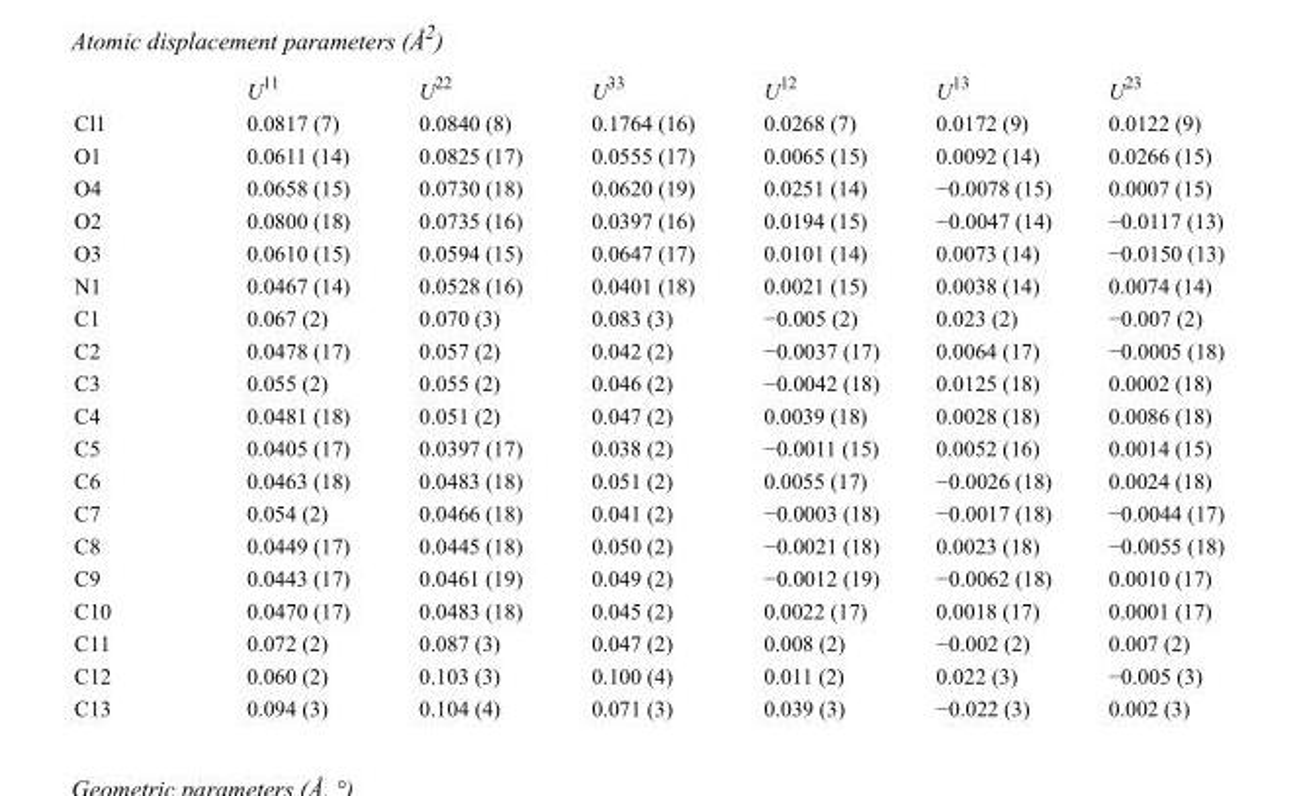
<table><thead><tr><td></td><td>U<sup>11</sup></td><td>U<sup>22</sup></td><td>U<sup>33</sup></td><td>U<sup>12</sup></td><td>U<sup>13</sup></td><td>U<sup>23</sup></td></tr></thead><tbody><tr><td>Cl1</td><td>0.0817 (7)</td><td>0.0840 (8)</td><td>0.1764 (16)</td><td>0.0268 (7)</td><td>0.0172 (9)</td><td>0.0122 (9)</td></tr><tr><td>O1</td><td>0.0611 (14)</td><td>0.0825 (17)</td><td>0.0555 (17)</td><td>0.0065 (15)</td><td>0.0092 (14)</td><td>0.0266 (15)</td></tr><tr><td>O4</td><td>0.0658 (15)</td><td>0.0730 (18)</td><td>0.0620 (19)</td><td>0.0251 (14)</td><td>−0.0078 (15)</td><td>0.0007 (15)</td></tr><tr><td>O2</td><td>0.0800 (18)</td><td>0.0735 (16)</td><td>0.0397 (16)</td><td>0.0194 (15)</td><td>−0.0047 (14)</td><td>−0.0117 (13)</td></tr><tr><td>O3</td><td>0.0610 (15)</td><td>0.0594 (15)</td><td>0.0647 (17)</td><td>0.0101 (14)</td><td>0.0073 (14)</td><td>−0.0150 (13)</td></tr><tr><td>N1</td><td>0.0467 (14)</td><td>0.0528 (16)</td><td>0.0401 (18)</td><td>0.0021 (15)</td><td>0.0038 (14)</td><td>0.0074 (14)</td></tr><tr><td>C1</td><td>0.067 (2)</td><td>0.070 (3)</td><td>0.083 (3)</td><td>−0.005 (2)</td><td>0.023 (2)</td><td>−0.007 (2)</td></tr><tr><td>C2</td><td>0.0478 (17)</td><td>0.057 (2)</td><td>0.042 (2)</td><td>−0.0037 (17)</td><td>0.0064 (17)</td><td>−0.0005 (18)</td></tr><tr><td>C3</td><td>0.055 (2)</td><td>0.055 (2)</td><td>0.046 (2)</td><td>−0.0042 (18)</td><td>0.0125 (18)</td><td>0.0002 (18)</td></tr><tr><td>C4</td><td>0.0481 (18)</td><td>0.051 (2)</td><td>0.047 (2)</td><td>0.0039 (18)</td><td>0.0028 (18)</td><td>0.0086 (18)</td></tr><tr><td>C5</td><td>0.0405 (17)</td><td>0.0397 (17)</td><td>0.038 (2)</td><td>−0.0011 (15)</td><td>0.0052 (16)</td><td>0.0014 (15)</td></tr><tr><td>C6</td><td>0.0463 (18)</td><td>0.0483 (18)</td><td>0.051 (2)</td><td>0.0055 (17)</td><td>−0.0026 (18)</td><td>0.0024 (18)</td></tr><tr><td>C7</td><td>0.054 (2)</td><td>0.0466 (18)</td><td>0.041 (2)</td><td>−0.0003 (18)</td><td>−0.0017 (18)</td><td>−0.0044 (17)</td></tr><tr><td>C8</td><td>0.0449 (17)</td><td>0.0445 (18)</td><td>0.050 (2)</td><td>−0.0021 (18)</td><td>0.0023 (18)</td><td>−0.0055 (18)</td></tr><tr><td>C9</td><td>0.0443 (17)</td><td>0.0461 (19)</td><td>0.049 (2)</td><td>−0.0012 (19)</td><td>−0.0062 (18)</td><td>0.0010 (17)</td></tr><tr><td>C10</td><td>0.0470 (17)</td><td>0.0483 (18)</td><td>0.045 (2)</td><td>0.0022 (17)</td><td>0.0018 (17)</td><td>0.0001 (17)</td></tr><tr><td>C11</td><td>0.072 (2)</td><td>0.087 (3)</td><td>0.047 (2)</td><td>0.008 (2)</td><td>−0.002 (2)</td><td>0.007 (2)</td></tr><tr><td>C12</td><td>0.060 (2)</td><td>0.103 (3)</td><td>0.100 (4)</td><td>0.011 (2)</td><td>0.022 (3)</td><td>−0.005 (3)</td></tr><tr><td>C13</td><td>0.094 (3)</td><td>0.104 (4)</td><td>0.071 (3)</td><td>0.039 (3)</td><td>−0.022 (3)</td><td>0.002 (3)</td></tr></tbody></table>